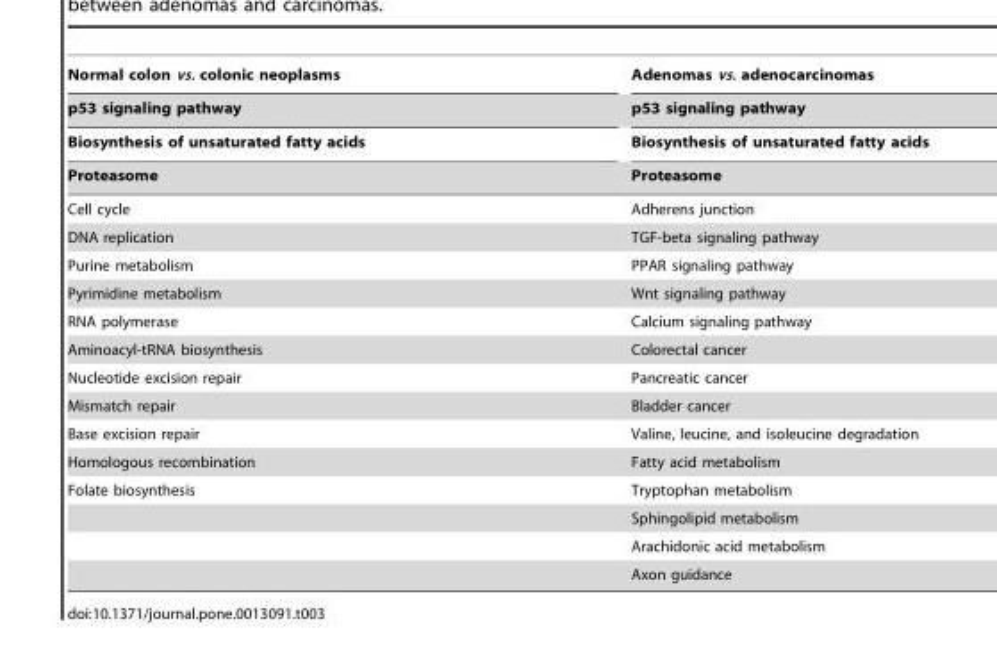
<table><thead><tr><td rowspan="4">Normal colon vs. colonic neoplasms p53 signaling pathway Biosynthesis of unsaturated fatty acids Proteasome</td><td rowspan="4">Adenomas vs. adenocarcinomas p53 signaling pathway Biosynthesis of unsaturated fatty acids Proteasome</td></tr><tr></tr><tr></tr><tr></tr></thead><tbody><tr><td>Cell cycle</td><td>Adherens junction</td></tr><tr><td>DNA replication</td><td>TGF-beta signaling pathway</td></tr><tr><td>Purine metabolism</td><td>PPAR signaling pathway</td></tr><tr><td>Pyrimidine metabolism</td><td>Wnt signaling pathway</td></tr><tr><td>RNA polymerase</td><td>Calcium signaling pathway</td></tr><tr><td>Aminoacyl-tRNA biosynthesis</td><td>Colorectal cancer</td></tr><tr><td>Nucleotide excision repair</td><td>Pancreatic cancer</td></tr><tr><td>Mismatch repair</td><td>Bladder cancer</td></tr><tr><td>Base excision repair</td><td>Valine, leucine, and isoleucine degradation</td></tr><tr><td>Homologous recombination</td><td>Fatty acid metabolism</td></tr><tr><td rowspan="4">Folate biosynthesis</td><td>Tryptophan metabolism</td></tr><tr><td>Sphingolipid metabolism</td></tr><tr><td>Arachidonic acid metabolism</td></tr><tr><td>Axon guidance</td></tr></tbody></table>